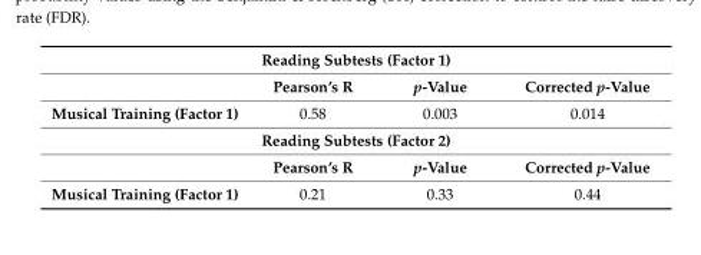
<table><thead><tr><td colspan="4">Reading Subtests (Factor 1)</td></tr><tr><td></td><td>Pearson’s R</td><td>p-Value</td><td>Corrected p-Value</td></tr></thead><tbody><tr><td>Musical Training (Factor 1)</td><td>0.58</td><td>0.003</td><td>0.014</td></tr><tr><td colspan="4">Reading Subtests (Factor 2)</td></tr><tr><td></td><td>Pearson’s R</td><td>p-Value</td><td>Corrected p-Value</td></tr><tr><td>Musical Training (Factor 1)</td><td>0.21</td><td>0.33</td><td>0.44</td></tr></tbody></table>